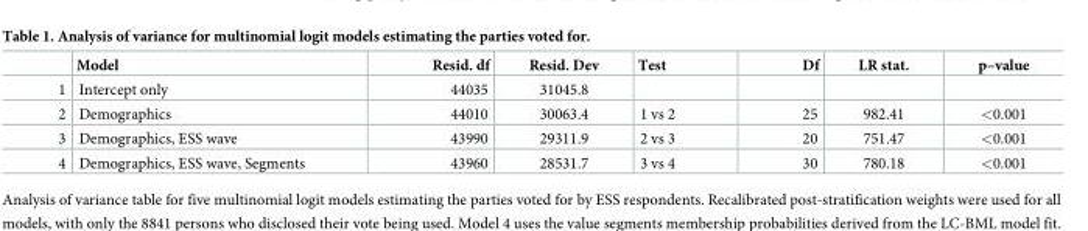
<table><thead><tr><td></td><td>Model</td><td>Resid. df</td><td>Resid. Dev</td><td>Test</td><td>Df</td><td>LR stat.</td><td>p–value</td></tr></thead><tbody><tr><td>1</td><td>Intercept only</td><td>44035</td><td>31045.8</td><td></td><td></td><td></td><td></td></tr><tr><td>2</td><td>Demographics</td><td>44010</td><td>30063.4</td><td>1 vs 2</td><td>25</td><td>982.41</td><td>&lt;0.001</td></tr><tr><td>3</td><td>Demographics, ESS wave</td><td>43990</td><td>29311.9</td><td>2 vs 3</td><td>20</td><td>751.47</td><td>&lt;0.001</td></tr><tr><td>4</td><td>Demographics, ESS wave, Segments</td><td>43960</td><td>28531.7</td><td>3 vs 4</td><td>30</td><td>780.18</td><td>&lt;0.001</td></tr></tbody></table>